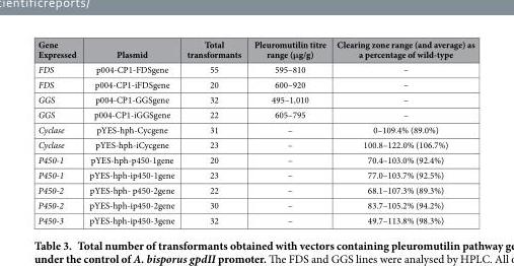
<table><thead><tr><td>Gene Expressed</td><td>Plasmid</td><td>Total transformants</td><td>Pleuromutilin titre range (μg/g)</td><td>Clearing zone range (and average) as a percentage of wild-type</td></tr></thead><tbody><tr><td>FDS</td><td>p004-CP1-FDSgene</td><td>55</td><td>595–810</td><td>–</td></tr><tr><td>FDS</td><td>p004-CP1-iFDSgene</td><td>20</td><td>600–920</td><td>–</td></tr><tr><td>GGS</td><td>p004-CP1-GGSgene</td><td>32</td><td>495–1,010</td><td>–</td></tr><tr><td>GGS</td><td>p004-CP1-iGGSgene</td><td>22</td><td>605–795</td><td>–</td></tr><tr><td>Cyclase</td><td>pYES-hph-Cycgene</td><td>31</td><td>–</td><td>0–109.4% (89.0%)</td></tr><tr><td>Cyclase</td><td>pYES-hph-iCycgene</td><td>23</td><td>–</td><td>100.8–122.0% (106.7%)</td></tr><tr><td>P450-1</td><td>pYES-hph-p450-1gene</td><td>20</td><td>–</td><td>70.4–103.0% (92.4%)</td></tr><tr><td>P450-1</td><td>pYES-hph-ip450-1gene</td><td>23</td><td>–</td><td>77.0–103.7% (92.5%)</td></tr><tr><td>P450-2</td><td>pYES-hph- p450-2gene</td><td>22</td><td>–</td><td>68.1–107.3% (89.3%)</td></tr><tr><td>P450-2</td><td>pYES-hph-ip450-2gene</td><td>30</td><td>–</td><td>83.7–105.2% (94.2%)</td></tr><tr><td>P450-3</td><td>pYES-hph-ip450-3gene</td><td>32</td><td>–</td><td>49.7–113.8% (98.3%)</td></tr></tbody></table>